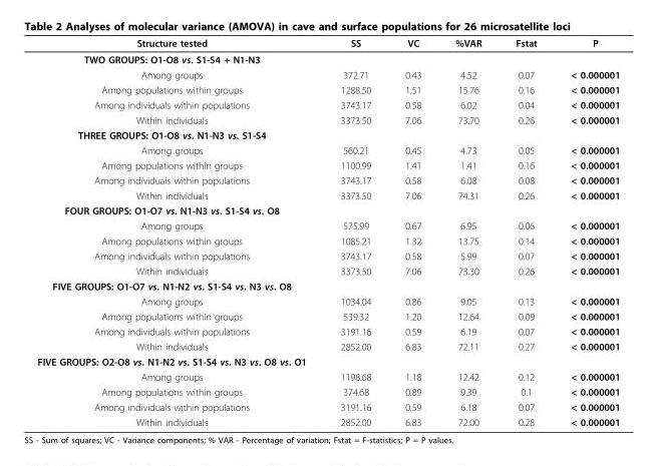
<table><thead><tr><td>Structure tested</td><td>SS</td><td>VC</td><td>%VAR</td><td>Fstat</td><td>P</td></tr></thead><tbody><tr><td colspan="6">TWO GROUPS: O1-O8 vs. S1-S4 + N1-N3</td></tr><tr><td>Among groups</td><td>372.71</td><td>0.43</td><td>4.52</td><td>0.07</td><td>&lt; 0.000001</td></tr><tr><td>Among populations within groups</td><td>1288.50</td><td>1.51</td><td>15.76</td><td>0.16</td><td>&lt; 0.000001</td></tr><tr><td>Among individuals within populations</td><td>3743.17</td><td>0.58</td><td>6.02</td><td>0.04</td><td>&lt; 0.000001</td></tr><tr><td>Within individuals</td><td>3373.50</td><td>7.06</td><td>73.70</td><td>0.26</td><td>&lt; 0.000001</td></tr><tr><td colspan="6">THREE GROUPS: O1-O8 vs. N1-N3 vs. S1-S4</td></tr><tr><td>Among groups</td><td>560.21</td><td>0.45</td><td>4.73</td><td>0.05</td><td>&lt; 0.000001</td></tr><tr><td>Among populations within groups</td><td>1100.99</td><td>1.41</td><td>1.41</td><td>0.16</td><td>&lt; 0.000001</td></tr><tr><td>Among individuals within populations</td><td>3743.17</td><td>0.58</td><td>6.08</td><td>0.08</td><td>&lt; 0.000001</td></tr><tr><td>Within individuals</td><td>3373.50</td><td>7.06</td><td>74.31</td><td>0.26</td><td>&lt; 0.000001</td></tr><tr><td colspan="6">FOUR GROUPS: O1-O7 vs. N1-N3 vs. S1-S4 vs. O8</td></tr><tr><td>Among groups</td><td>575.99</td><td>0.67</td><td>6.95</td><td>0.06</td><td>&lt; 0.000001</td></tr><tr><td>Among populations within groups</td><td>1085.21</td><td>1.32</td><td>13.75</td><td>0.14</td><td>&lt; 0.000001</td></tr><tr><td>Among individuals within populations</td><td>3743.17</td><td>0.58</td><td>5.99</td><td>0.07</td><td>&lt; 0.000001</td></tr><tr><td>Within individuals</td><td>3373.50</td><td>7.06</td><td>73.30</td><td>0.26</td><td>&lt; 0.000001</td></tr><tr><td colspan="6">FIVE GROUPS: O1-O7 vs. N1-N2 vs. S1-S4 vs. N3 vs. O8</td></tr><tr><td>Among groups</td><td>1034.04</td><td>0.86</td><td>9.05</td><td>0.13</td><td>&lt; 0.000001</td></tr><tr><td>Among populations within groups</td><td>539.32</td><td>1.20</td><td>12.64</td><td>0.09</td><td>&lt; 0.000001</td></tr><tr><td>Among individuals within populations</td><td>3191.16</td><td>0.59</td><td>6.19</td><td>0.07</td><td>&lt; 0.000001</td></tr><tr><td>Within individuals</td><td>2852.00</td><td>6.83</td><td>72.11</td><td>0.27</td><td>&lt; 0.000001</td></tr><tr><td colspan="6">FIVE GROUPS: O2-O8 vs. N1-N2 vs. S1-S4 vs. N3 vs. O8 vs. O1</td></tr><tr><td>Among groups</td><td>1198.68</td><td>1.18</td><td>12.42</td><td>0.12</td><td>&lt; 0.000001</td></tr><tr><td>Among populations within groups</td><td>374.68</td><td>0.89</td><td>9.39</td><td>0.1</td><td>&lt; 0.000001</td></tr><tr><td>Among individuals within populations</td><td>3191.16</td><td>0.59</td><td>6.18</td><td>0.07</td><td>&lt; 0.000001</td></tr><tr><td>Within individuals</td><td>2852.00</td><td>6.83</td><td>72.00</td><td>0.28</td><td>&lt; 0.000001</td></tr></tbody></table>